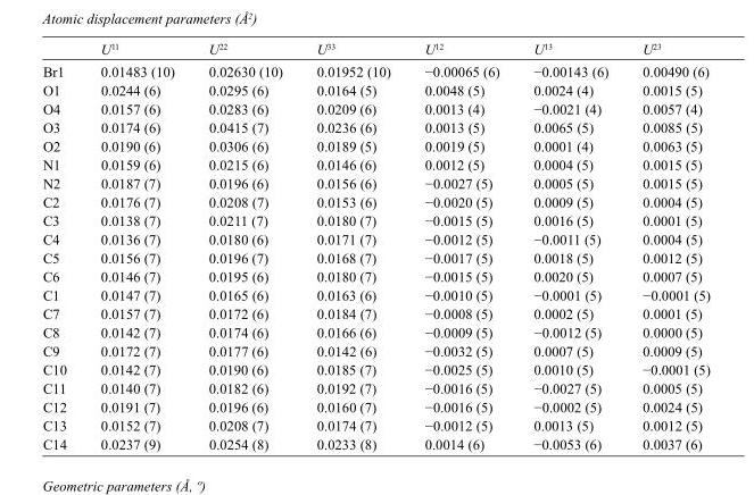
<table><thead><tr><td></td><td>U<sup>11</sup></td><td>U<sup>22</sup></td><td>U<sup>33</sup></td><td>U<sup>12</sup></td><td>U<sup>13</sup></td><td>U<sup>23</sup></td></tr></thead><tbody><tr><td>Br1</td><td>0.01483 (10)</td><td>0.02630 (10)</td><td>0.01952 (10)</td><td>−0.00065 (6)</td><td>−0.00143 (6)</td><td>0.00490 (6)</td></tr><tr><td>O1</td><td>0.0244 (6)</td><td>0.0295 (6)</td><td>0.0164 (5)</td><td>0.0048 (5)</td><td>0.0024 (4)</td><td>0.0015 (5)</td></tr><tr><td>O4</td><td>0.0157 (6)</td><td>0.0283 (6)</td><td>0.0209 (6)</td><td>0.0013 (4)</td><td>−0.0021 (4)</td><td>0.0057 (4)</td></tr><tr><td>O3</td><td>0.0174 (6)</td><td>0.0415 (7)</td><td>0.0236 (6)</td><td>0.0013 (5)</td><td>0.0065 (5)</td><td>0.0085 (5)</td></tr><tr><td>O2</td><td>0.0190 (6)</td><td>0.0306 (6)</td><td>0.0189 (5)</td><td>0.0019 (5)</td><td>0.0001 (4)</td><td>0.0063 (5)</td></tr><tr><td>N1</td><td>0.0159 (6)</td><td>0.0215 (6)</td><td>0.0146 (6)</td><td>0.0012 (5)</td><td>0.0004 (5)</td><td>0.0015 (5)</td></tr><tr><td>N2</td><td>0.0187 (7)</td><td>0.0196 (6)</td><td>0.0156 (6)</td><td>−0.0027 (5)</td><td>0.0005 (5)</td><td>0.0015 (5)</td></tr><tr><td>C2</td><td>0.0176 (7)</td><td>0.0208 (7)</td><td>0.0153 (6)</td><td>−0.0020 (5)</td><td>0.0009 (5)</td><td>0.0004 (5)</td></tr><tr><td>C3</td><td>0.0138 (7)</td><td>0.0211 (7)</td><td>0.0180 (7)</td><td>−0.0015 (5)</td><td>0.0016 (5)</td><td>0.0001 (5)</td></tr><tr><td>C4</td><td>0.0136 (7)</td><td>0.0180 (6)</td><td>0.0171 (7)</td><td>−0.0012 (5)</td><td>−0.0011 (5)</td><td>0.0004 (5)</td></tr><tr><td>C5</td><td>0.0156 (7)</td><td>0.0196 (7)</td><td>0.0168 (7)</td><td>−0.0017 (5)</td><td>0.0018 (5)</td><td>0.0012 (5)</td></tr><tr><td>C6</td><td>0.0146 (7)</td><td>0.0195 (6)</td><td>0.0180 (7)</td><td>−0.0015 (5)</td><td>0.0020 (5)</td><td>0.0007 (5)</td></tr><tr><td>C1</td><td>0.0147 (7)</td><td>0.0165 (6)</td><td>0.0163 (6)</td><td>−0.0010 (5)</td><td>−0.0001 (5)</td><td>−0.0001 (5)</td></tr><tr><td>C7</td><td>0.0157 (7)</td><td>0.0172 (6)</td><td>0.0184 (7)</td><td>−0.0008 (5)</td><td>0.0002 (5)</td><td>0.0001 (5)</td></tr><tr><td>C8</td><td>0.0142 (7)</td><td>0.0174 (6)</td><td>0.0166 (6)</td><td>−0.0009 (5)</td><td>−0.0012 (5)</td><td>0.0000 (5)</td></tr><tr><td>C9</td><td>0.0172 (7)</td><td>0.0177 (6)</td><td>0.0142 (6)</td><td>−0.0032 (5)</td><td>0.0007 (5)</td><td>0.0009 (5)</td></tr><tr><td>C10</td><td>0.0142 (7)</td><td>0.0190 (6)</td><td>0.0185 (7)</td><td>−0.0025 (5)</td><td>0.0010 (5)</td><td>−0.0001 (5)</td></tr><tr><td>C11</td><td>0.0140 (7)</td><td>0.0182 (6)</td><td>0.0192 (7)</td><td>−0.0016 (5)</td><td>−0.0027 (5)</td><td>0.0005 (5)</td></tr><tr><td>C12</td><td>0.0191 (7)</td><td>0.0196 (6)</td><td>0.0160 (7)</td><td>−0.0016 (5)</td><td>−0.0002 (5)</td><td>0.0024 (5)</td></tr><tr><td>C13</td><td>0.0152 (7)</td><td>0.0208 (7)</td><td>0.0174 (7)</td><td>−0.0012 (5)</td><td>0.0013 (5)</td><td>0.0012 (5)</td></tr><tr><td>C14</td><td>0.0237 (9)</td><td>0.0254 (8)</td><td>0.0233 (8)</td><td>0.0014 (6)</td><td>−0.0053 (6)</td><td>0.0037 (6)</td></tr></tbody></table>